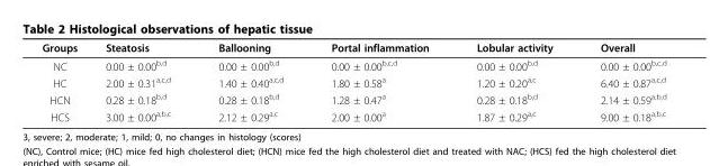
<table><thead><tr><td>Groups</td><td>Steatosis</td><td>Ballooning</td><td>Portal inflammation</td><td>Lobular activity</td><td>Overall</td></tr></thead><tbody><tr><td>NC</td><td>0.00 ± 0.00<sup>b,d</sup></td><td>0.00 ± 0.00<sup>b,d</sup></td><td>0.00 ± 0.00<sup>b,c,d</sup></td><td>0.00 ± 0.00<sup>b,d</sup></td><td>0.00 ± 0.00<sup>b,c,d</sup></td></tr><tr><td>HC</td><td>2.00 ± 0.31<sup>a,c,d</sup></td><td>1.40 ± 0.40<sup>a,c,d</sup></td><td>1.80 ± 0.58<sup>a</sup></td><td>1.20 ± 0.20<sup>a,c</sup></td><td>6.40 ± 0.87<sup>a,c,d</sup></td></tr><tr><td>HCN</td><td>0.28 ± 0.18<sup>b,d</sup></td><td>0.28 ± 0.18<sup>b,d</sup></td><td>1.28 ± 0.47<sup>a</sup></td><td>0.28 ± 0.18<sup>b,d</sup></td><td>2.14 ± 0.59<sup>a,b,d</sup></td></tr><tr><td>HCS</td><td>3.00 ± 0.00<sup>a,b,c</sup></td><td>2.12 ± 0.29<sup>a,c</sup></td><td>2.00 ± 0.00<sup>a</sup></td><td>1.87 ± 0.29<sup>a,c</sup></td><td>9.00 ± 0.18<sup>a,b,c</sup></td></tr></tbody></table>